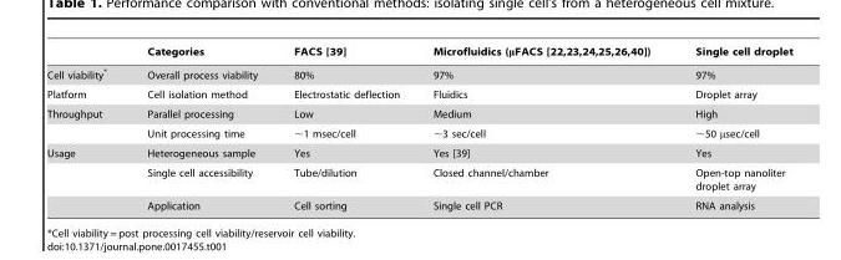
<table><thead><tr><td></td><td>Categories</td><td>FACS [39]</td><td>Microfluidics (mFACS [22,23,24,25,26,40])</td><td>Single cell droplet</td></tr></thead><tbody><tr><td>Cell viability*</td><td>Overall process viability</td><td>80%</td><td>97%</td><td>97%</td></tr><tr><td>Platform</td><td>Cell isolation method</td><td>Electrostatic deflection</td><td>Fluidics</td><td>Droplet array</td></tr><tr><td rowspan="2">Throughput</td><td>Parallel processing</td><td>Low</td><td>Medium</td><td>High</td></tr><tr><td>Unit processing time</td><td>∼1 msec/cell</td><td>∼3 sec/cell</td><td>∼50 µsec/cell</td></tr><tr><td rowspan="3">Usage</td><td>Heterogeneous sample</td><td>Yes</td><td>Yes [39]</td><td>Yes</td></tr><tr><td>Single cell accessibility</td><td>Tube/dilution</td><td>Closed channel/chamber</td><td>Open-top nanoliter droplet array</td></tr><tr><td>Application</td><td>Cell sorting</td><td>Single cell PCR</td><td>RNA analysis</td></tr></tbody></table>